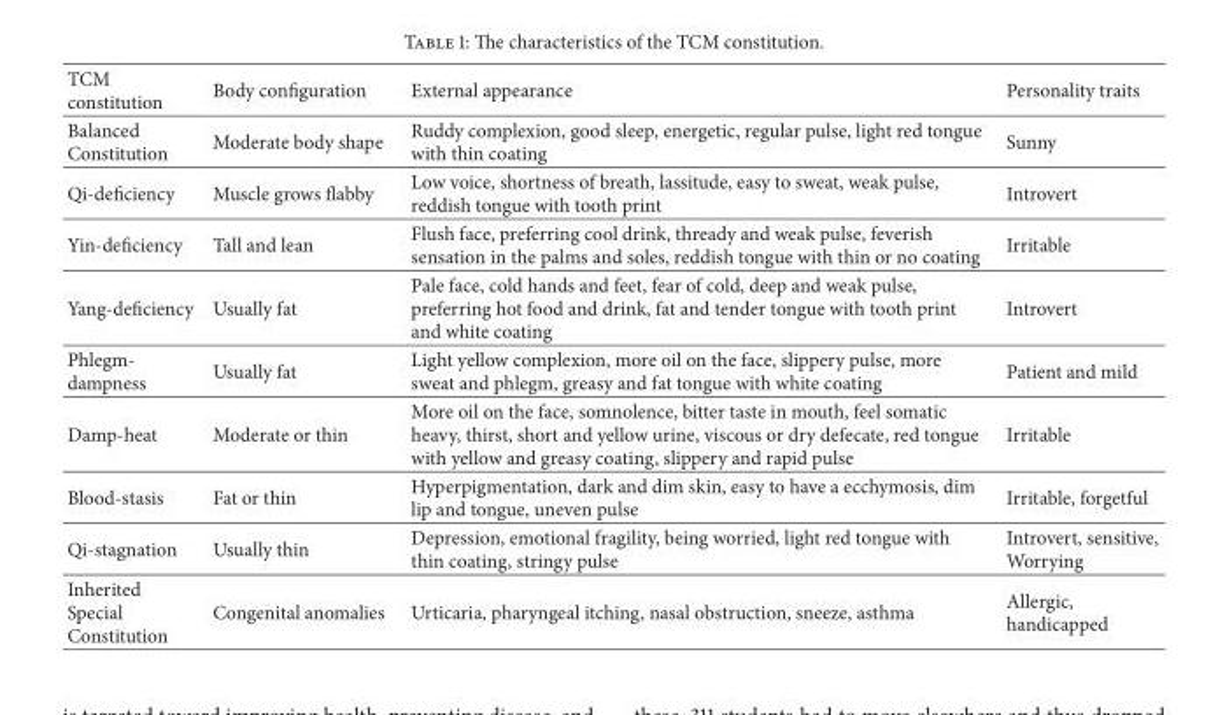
<table><thead><tr><td>TCM constitution</td><td>Body configuration</td><td>External appearance</td><td>Personality traits</td></tr></thead><tbody><tr><td>Balanced Constitution</td><td>Moderate body shape</td><td>Ruddy complexion, good sleep, energetic, regular pulse, light red tongue with thin coating</td><td>Sunny</td></tr><tr><td>Qi-deficiency</td><td>Muscle grows flabby</td><td>Low voice, shortness of breath, lassitude, easy to sweat, weak pulse, reddish tongue with tooth print</td><td>Introvert</td></tr><tr><td>Yin-deficiency</td><td>Tall and lean</td><td>Flush face, preferring cool drink, thready and weak pulse, feverish sensation in the palms and soles, reddish tongue with thin or no coating</td><td>Irritable</td></tr><tr><td>Yang-deficiency</td><td>Usually fat</td><td>Pale face, cold hands and feet, fear of cold, deep and weak pulse, preferring hot food and drink, fat and tender tongue with tooth print and white coating</td><td>Introvert</td></tr><tr><td>Phlegm- dampness</td><td>Usually fat</td><td>Light yellow complexion, more oil on the face, slippery pulse, more sweat and phlegm, greasy and fat tongue with white coating</td><td>Patient and mild</td></tr><tr><td>Damp-heat</td><td>Moderate or thin</td><td>More oil on the face, somnolence, bitter taste in mouth, feel somatic heavy, thirst, short and yellow urine, viscous or dry defecate, red tongue with yellow and greasy coating, slippery and rapid pulse</td><td>Irritable</td></tr><tr><td>Blood-stasis</td><td>Fat or thin</td><td>Hyperpigmentation, dark and dim skin, easy to have a ecchymosis, dim lip and tongue, uneven pulse</td><td>Irritable, forgetful</td></tr><tr><td>Qi-stagnation</td><td>Usually thin</td><td>Depression, emotional fragility, being worried, light red tongue with thin coating, stringy pulse</td><td>Introvert, sensitive, Worrying</td></tr><tr><td>Inherited Special Constitution</td><td>Congenital anomalies</td><td>Urticaria, pharyngeal itching, nasal obstruction, sneeze, asthma</td><td>Allergic, handicapped</td></tr></tbody></table>